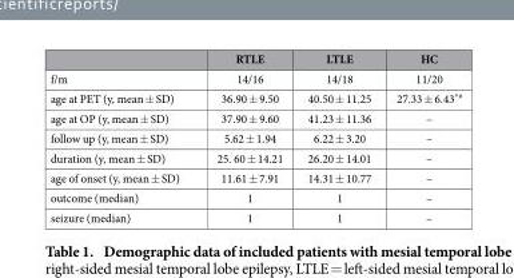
<table><thead><tr><td></td><td>RTLE</td><td>LTLE</td><td>HC</td></tr></thead><tbody><tr><td>f/m</td><td>14/16</td><td>14/18</td><td>11/20</td></tr><tr><td>age at PET (y, mean ± SD)</td><td>36.90 ± 9.50</td><td>40.50 ± 11.25</td><td>27.33 ± 6.43<sup>*#</sup></td></tr><tr><td>age at OP (y, mean ± SD)</td><td>37.90 ± 9.60</td><td>41.23 ± 11.36</td><td>–</td></tr><tr><td>follow up (y, mean ± SD)</td><td>5.62 ± 1.94</td><td>6.22 ± 3.20</td><td>–</td></tr><tr><td>duration (y, mean ± SD)</td><td>25. 60 ± 14.21</td><td>26.20 ± 14.01</td><td>–</td></tr><tr><td>age of onset (y, mean ± SD)</td><td>11.61 ± 7.91</td><td>14.31 ± 10.77</td><td>–</td></tr><tr><td>outcome (median)</td><td>1</td><td>1</td><td>–</td></tr><tr><td>seizure (median)</td><td>1</td><td>1</td><td>–</td></tr></tbody></table>